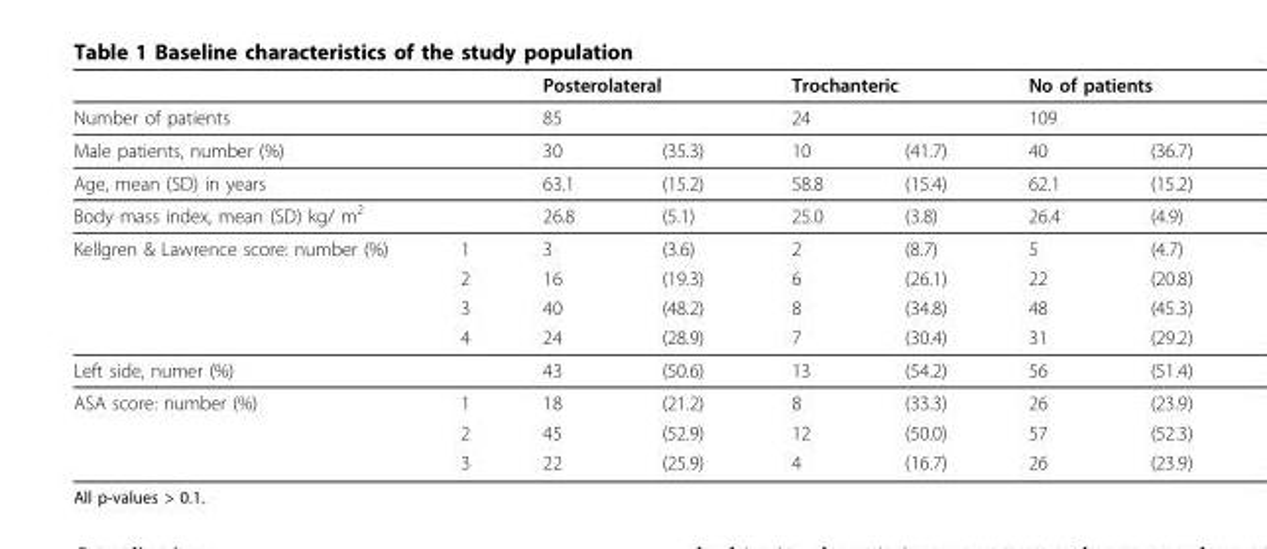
<table><thead><tr><td></td><td></td><td rowspan="2" colspan="2">Posterolateral 85</td><td rowspan="2" colspan="2">Trochanteric 24</td><td rowspan="2" colspan="2">No of patients 109</td></tr><tr><td rowspan="2" colspan="2">Number of patients Male patients, number (%)</td></tr><tr><td>30</td><td>(35.3)</td><td>10</td><td>(41.7)</td><td>40</td><td>(36.7)</td></tr></thead><tbody><tr><td colspan="2">Age, mean (SD) in years</td><td>63.1</td><td>(15.2)</td><td>58.8</td><td>(15.4)</td><td>62.1</td><td>(15.2)</td></tr><tr><td colspan="2">Body mass index, mean (SD) kg/ m<sup>2</sup></td><td>26.8</td><td>(5.1)</td><td>25.0</td><td>(3.8)</td><td>26.4</td><td>(4.9)</td></tr><tr><td rowspan="4">Kellgren &amp; Lawrence score: number (%)</td><td>1</td><td>3</td><td>(3.6)</td><td>2</td><td>(8.7)</td><td>5</td><td>(4.7)</td></tr><tr><td>2</td><td>16</td><td>(19.3)</td><td>6</td><td>(26.1)</td><td>22</td><td>(20.8)</td></tr><tr><td>3</td><td>40</td><td>(48.2)</td><td>8</td><td>(34.8)</td><td>48</td><td>(45.3)</td></tr><tr><td>4</td><td>24</td><td>(28.9)</td><td>7</td><td>(30.4)</td><td>31</td><td>(29.2)</td></tr><tr><td colspan="2">Left side, numer (%)</td><td>43</td><td>(50.6)</td><td>13</td><td>(54.2)</td><td>56</td><td>(51.4)</td></tr><tr><td rowspan="3">ASA score: number (%)</td><td>1</td><td>18</td><td>(21.2)</td><td>8</td><td>(33.3)</td><td>26</td><td>(23.9)</td></tr><tr><td>2</td><td>45</td><td>(52.9)</td><td>12</td><td>(50.0)</td><td>57</td><td>(52.3)</td></tr><tr><td>3</td><td>22</td><td>(25.9)</td><td>4</td><td>(16.7)</td><td>26</td><td>(23.9)</td></tr></tbody></table>